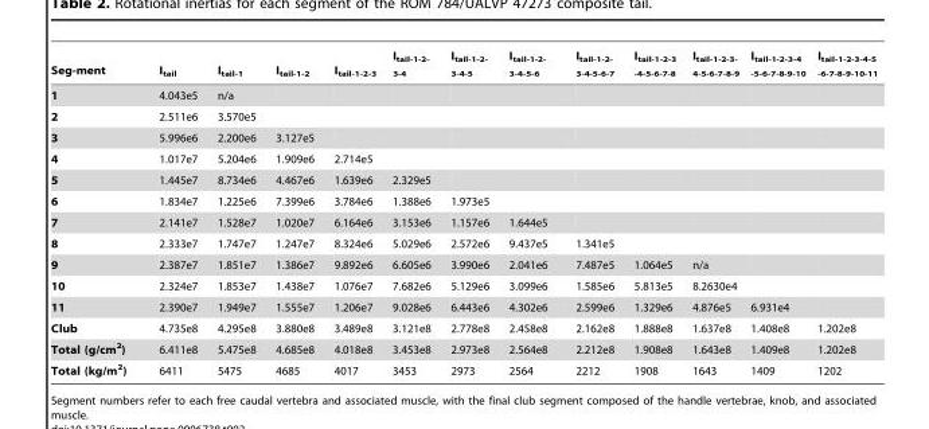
<table><thead><tr><td>Seg-ment</td><td>I<sub>tail</sub></td><td>I<sub>tail-1</sub></td><td>I<sub>tail-1-2</sub></td><td>I<sub>tail-1-2-3</sub></td><td>I<sub>tail-1-2- 3-4</sub></td><td>I<sub>tail-1-2- 3-4-5</sub></td><td>I<sub>tail-1-2- 3-4-5-6</sub></td><td>I<sub>tail-1-2- 3-4-5-6-7</sub></td><td>I<sub>tail-1-2-3 -4-5-6-7-8</sub></td><td>I<sub>tail-1-2-3- 4-5-6-7-8-9</sub></td><td>I<sub>tail-1-2-3-4 -5-6-7-8-9-10</sub></td><td>I<sub>tail-1-2-3-4-5 -6-7-8-9-10-11</sub></td></tr></thead><tbody><tr><td>1</td><td>4.043e5</td><td>n/a</td><td></td><td></td><td></td><td></td><td></td><td></td><td></td><td></td><td></td><td></td></tr><tr><td>2</td><td>2.511e6</td><td>3.570e5</td><td></td><td></td><td></td><td></td><td></td><td></td><td></td><td></td><td></td><td></td></tr><tr><td>3</td><td>5.996e6</td><td>2.200e6</td><td>3.127e5</td><td></td><td></td><td></td><td></td><td></td><td></td><td></td><td></td><td></td></tr><tr><td>4</td><td>1.017e7</td><td>5.204e6</td><td>1.909e6</td><td>2.714e5</td><td></td><td></td><td></td><td></td><td></td><td></td><td></td><td></td></tr><tr><td>5</td><td>1.445e7</td><td>8.734e6</td><td>4.467e6</td><td>1.639e6</td><td>2.329e5</td><td></td><td></td><td></td><td></td><td></td><td></td><td></td></tr><tr><td>6</td><td>1.834e7</td><td>1.225e6</td><td>7.399e6</td><td>3.784e6</td><td>1.388e6</td><td>1.973e5</td><td></td><td></td><td></td><td></td><td></td><td></td></tr><tr><td>7</td><td>2.141e7</td><td>1.528e7</td><td>1.020e7</td><td>6.164e6</td><td>3.153e6</td><td>1.157e6</td><td>1.644e5</td><td></td><td></td><td></td><td></td><td></td></tr><tr><td>8</td><td>2.333e7</td><td>1.747e7</td><td>1.247e7</td><td>8.324e6</td><td>5.029e6</td><td>2.572e6</td><td>9.437e5</td><td>1.341e5</td><td></td><td></td><td></td><td></td></tr><tr><td>9</td><td>2.387e7</td><td>1.851e7</td><td>1.386e7</td><td>9.892e6</td><td>6.605e6</td><td>3.990e6</td><td>2.041e6</td><td>7.487e5</td><td>1.064e5</td><td>n/a</td><td></td><td></td></tr><tr><td>10</td><td>2.324e7</td><td>1.853e7</td><td>1.438e7</td><td>1.076e7</td><td>7.682e6</td><td>5.129e6</td><td>3.099e6</td><td>1.585e6</td><td>5.813e5</td><td>8.2630e4</td><td></td><td></td></tr><tr><td>11</td><td>2.390e7</td><td>1.949e7</td><td>1.555e7</td><td>1.206e7</td><td>9.028e6</td><td>6.443e6</td><td>4.302e6</td><td>2.599e6</td><td>1.329e6</td><td>4.876e5</td><td>6.931e4</td><td></td></tr><tr><td>Club</td><td>4.735e8</td><td>4.295e8</td><td>3.880e8</td><td>3.489e8</td><td>3.121e8</td><td>2.778e8</td><td>2.458e8</td><td>2.162e8</td><td>1.888e8</td><td>1.637e8</td><td>1.408e8</td><td>1.202e8</td></tr><tr><td>Total (g/cm<sup>2</sup>)</td><td>6.411e8</td><td>5.475e8</td><td>4.685e8</td><td>4.018e8</td><td>3.453e8</td><td>2.973e8</td><td>2.564e8</td><td>2.212e8</td><td>1.908e8</td><td>1.643e8</td><td>1.409e8</td><td>1.202e8</td></tr><tr><td>Total (kg/m<sup>2</sup>)</td><td>6411</td><td>5475</td><td>4685</td><td>4017</td><td>3453</td><td>2973</td><td>2564</td><td>2212</td><td>1908</td><td>1643</td><td>1409</td><td>1202</td></tr></tbody></table>